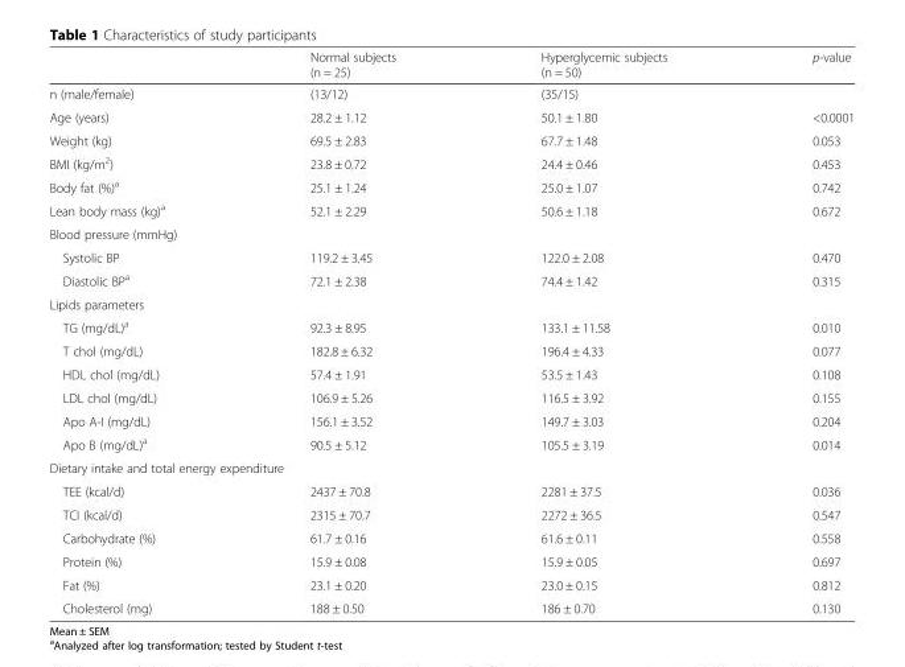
<table><thead><tr><td></td><td>Normal subjects (n = 25)</td><td>Hyperglycemic subjects (n = 50)</td><td>p-value</td></tr></thead><tbody><tr><td>n (male/female)</td><td>(13/12)</td><td>(35/15)</td><td></td></tr><tr><td>Age (years)</td><td>28.2 ± 1.12</td><td>50.1 ± 1.80</td><td>&lt;0.0001</td></tr><tr><td>Weight (kg)</td><td>69.5 ± 2.83</td><td>67.7 ± 1.48</td><td>0.053</td></tr><tr><td>BMI (kg/m<sup>2</sup>)</td><td>23.8 ± 0.72</td><td>24.4 ± 0.46</td><td>0.453</td></tr><tr><td>Body fat (%)<sup>a</sup></td><td>25.1 ± 1.24</td><td>25.0 ± 1.07</td><td>0.742</td></tr><tr><td>Lean body mass (kg)<sup>a</sup></td><td>52.1 ± 2.29</td><td>50.6 ± 1.18</td><td>0.672</td></tr><tr><td colspan="4">Blood pressure (mmHg)</td></tr><tr><td>Systolic BP</td><td>119.2 ± 3.45</td><td>122.0 ± 2.08</td><td>0.470</td></tr><tr><td>Diastolic BP<sup>a</sup></td><td>72.1 ± 2.38</td><td>74.4 ± 1.42</td><td>0.315</td></tr><tr><td colspan="4">Lipids parameters</td></tr><tr><td>TG (mg/dL)<sup>a</sup></td><td>92.3 ± 8.95</td><td>133.1 ± 11.58</td><td>0.010</td></tr><tr><td>T chol (mg/dL)</td><td>182.8 ± 6.32</td><td>196.4 ± 4.33</td><td>0.077</td></tr><tr><td>HDL chol (mg/dL)</td><td>57.4 ± 1.91</td><td>53.5 ± 1.43</td><td>0.108</td></tr><tr><td>LDL chol (mg/dL)</td><td>106.9 ± 5.26</td><td>116.5 ± 3.92</td><td>0.155</td></tr><tr><td>Apo A-I (mg/dL)</td><td>156.1 ± 3.52</td><td>149.7 ± 3.03</td><td>0.204</td></tr><tr><td>Apo B (mg/dL)<sup>a</sup></td><td>90.5 ± 5.12</td><td>105.5 ± 3.19</td><td>0.014</td></tr><tr><td colspan="4">Dietary intake and total energy expenditure</td></tr><tr><td>TEE (kcal/d)</td><td>2437 ± 70.8</td><td>2281 ± 37.5</td><td>0.036</td></tr><tr><td>TCI (kcal/d)</td><td>2315 ± 70.7</td><td>2272 ± 36.5</td><td>0.547</td></tr><tr><td>Carbohydrate (%)</td><td>61.7 ± 0.16</td><td>61.6 ± 0.11</td><td>0.558</td></tr><tr><td>Protein (%)</td><td>15.9 ± 0.08</td><td>15.9 ± 0.05</td><td>0.697</td></tr><tr><td>Fat (%)</td><td>23.1 ± 0.20</td><td>23.0 ± 0.15</td><td>0.812</td></tr><tr><td>Cholesterol (mg)</td><td>188 ± 0.50</td><td>186 ± 0.70</td><td>0.130</td></tr></tbody></table>